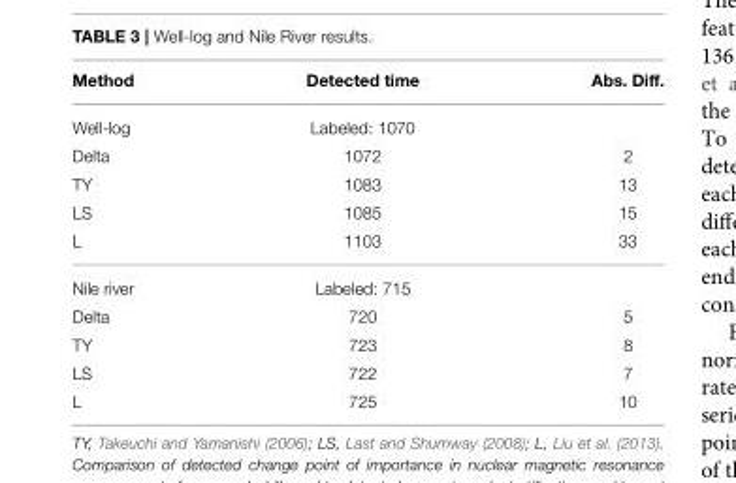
<table><thead><tr><td>Method</td><td>Detected time</td><td>Abs. Diff.</td></tr></thead><tbody><tr><td>Well-log</td><td>Labeled: 1070</td><td></td></tr><tr><td>Delta</td><td>1072</td><td>2</td></tr><tr><td>TY</td><td>1083</td><td>13</td></tr><tr><td>LS</td><td>1085</td><td>15</td></tr><tr><td>L</td><td>1103</td><td>33</td></tr><tr><td>Nile river</td><td>Labeled: 715</td><td></td></tr><tr><td>Delta</td><td>720</td><td>5</td></tr><tr><td>TY</td><td>723</td><td>8</td></tr><tr><td>LS</td><td>722</td><td>7</td></tr><tr><td>L</td><td>725</td><td>10</td></tr></tbody></table>